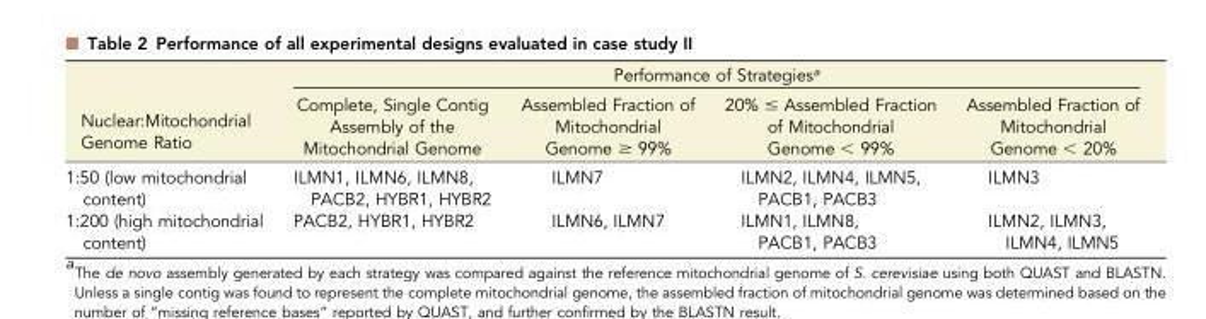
<table><thead><tr><td rowspan="2">Nuclear:Mitochondrial Genome Ratio</td><td colspan="4">Performance of Strategies<sup>a</sup></td></tr><tr><td>Complete, Single Contig Assembly of the Mitochondrial Genome</td><td>Assembled Fraction of Mitochondrial Genome ≥ 99%</td><td>20% ≤ Assembled Fraction of Mitochondrial Genome &lt; 99%</td><td>Assembled Fraction of Mitochondrial Genome &lt; 20%</td></tr></thead><tbody><tr><td>1:50 (low mitochondrial content)</td><td>ILMN1, ILMN6, ILMN8, PACB2, HYBR1, HYBR2</td><td>ILMN7</td><td>ILMN2, ILMN4, ILMN5, PACB1, PACB3</td><td>ILMN3</td></tr><tr><td>1:200 (high mitochondrial content)</td><td>PACB2, HYBR1, HYBR2</td><td>ILMN6, ILMN7</td><td>ILMN1, ILMN8, PACB1, PACB3</td><td>ILMN2, ILMN3, ILMN4, ILMN5</td></tr></tbody></table>